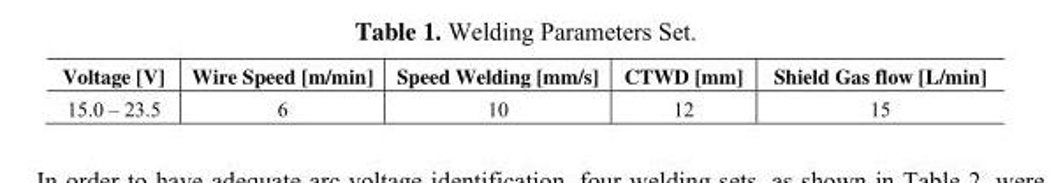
<table><thead><tr><td>Voltage [V]</td><td>Wire Speed [m/min]</td><td>Speed Welding [mm/s]</td><td>CTWD [mm]</td><td>Shield Gas flow [L/min]</td></tr></thead><tbody><tr><td>15.0 – 23.5</td><td>6</td><td>10</td><td>12</td><td>15</td></tr></tbody></table>